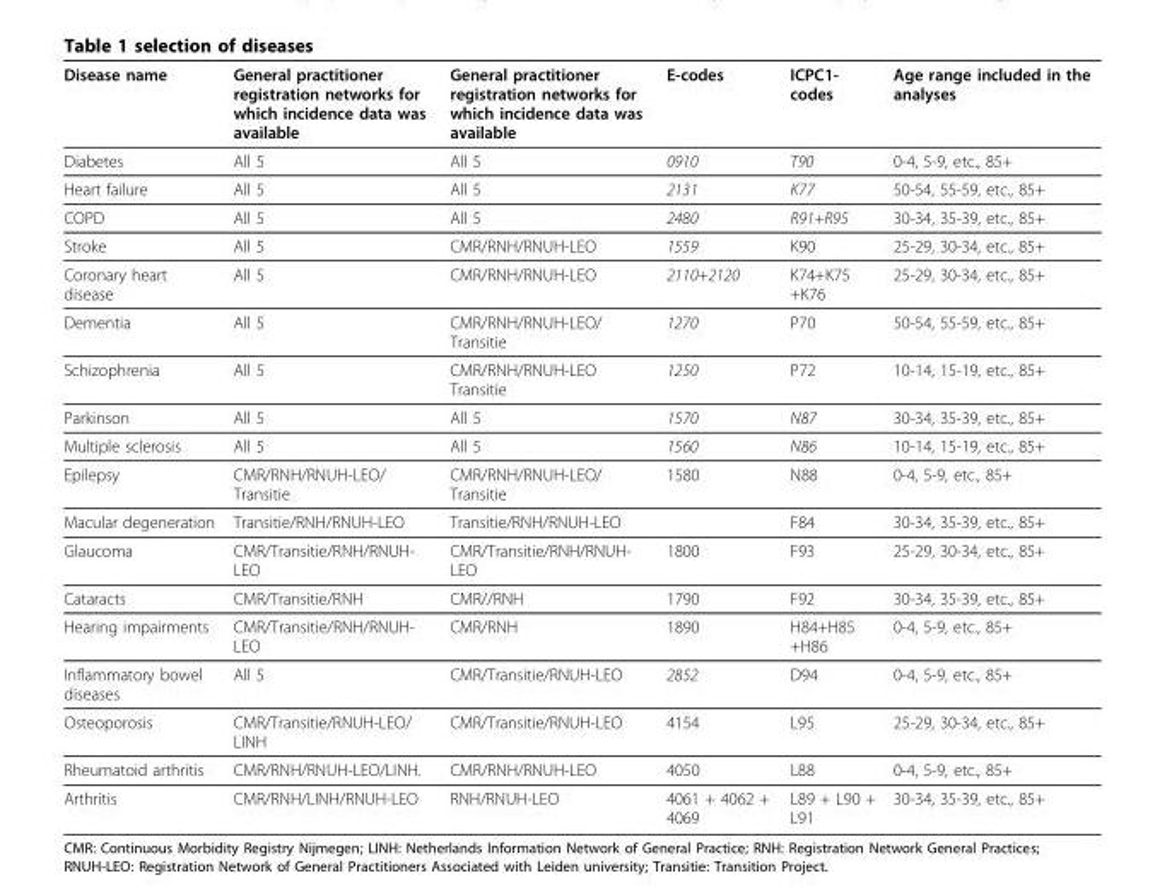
<table><thead><tr><td>Disease name</td><td>General practitioner registration networks for which incidence data was available</td><td>General practitioner registration networks for which incidence data was available</td><td>E-codes</td><td>ICPC1- codes</td><td>Age range included in the analyses</td></tr></thead><tbody><tr><td>Diabetes</td><td>All 5</td><td>All 5</td><td>0910</td><td>T90</td><td>0-4, 5-9, etc., 85+</td></tr><tr><td>Heart failure</td><td>All 5</td><td>All 5</td><td>2131</td><td>K77</td><td>50-54, 55-59, etc., 85+</td></tr><tr><td>COPD</td><td>All 5</td><td>All 5</td><td>2480</td><td>R91+R95</td><td>30-34, 35-39, etc., 85+</td></tr><tr><td>Stroke</td><td>All 5</td><td>CMR/RNH/RNUH-LEO</td><td>1559</td><td>K90</td><td>25-29, 30-34, etc., 85+</td></tr><tr><td>Coronary heart disease</td><td>All 5</td><td>CMR/RNH/RNUH-LEO</td><td>2110+2120</td><td>K74+K75 +K76</td><td>25-29, 30-34, etc., 85+</td></tr><tr><td>Dementia</td><td>All 5</td><td>CMR/RNH/RNUH-LEO/ Transitie</td><td>1270</td><td>P70</td><td>50-54, 55-59, etc., 85+</td></tr><tr><td>Schizophrenia</td><td>All 5</td><td>CMR/RNH/RNUH-LEO Transitie</td><td>1250</td><td>P72</td><td>10-14, 15-19, etc., 85+</td></tr><tr><td>Parkinson</td><td>All 5</td><td>All 5</td><td>1570</td><td>N87</td><td>30-34, 35-39, etc., 85+</td></tr><tr><td>Multiple sclerosis</td><td>All 5</td><td>All 5</td><td>1560</td><td>N86</td><td>10-14, 15-19, etc., 85+</td></tr><tr><td>Epilepsy</td><td>CMR/RNH/RNUH-LEO/ Transitie</td><td>CMR/RNH/RNUH-LEO/ Transitie</td><td>1580</td><td>N88</td><td>0-4, 5-9, etc., 85+</td></tr><tr><td>Macular degeneration</td><td>Transitie/RNH/RNUH-LEO</td><td>Transitie/RNH/RNUH-LEO</td><td></td><td>F84</td><td>30-34, 35-39, etc., 85+</td></tr><tr><td>Glaucoma</td><td>CMR/Transitie/RNH/RNUH- LEO</td><td>CMR/Transitie/RNH/RNUH- LEO</td><td>1800</td><td>F93</td><td>25-29, 30-34, etc., 85+</td></tr><tr><td>Cataracts</td><td>CMR/Transitie/RNH</td><td>CMR//RNH</td><td>1790</td><td>F92</td><td>30-34, 35-39, etc., 85+</td></tr><tr><td>Hearing impairments</td><td>CMR/Transitie/RNH/RNUH- LEO</td><td>CMR/RNH</td><td>1890</td><td>H84+H85 +H86</td><td>0-4, 5-9, etc., 85+</td></tr><tr><td>Inflammatory bowel diseases</td><td>All 5</td><td>CMR/Transitie/RNUH-LEO</td><td>2852</td><td>D94</td><td>0-4, 5-9, etc., 85+</td></tr><tr><td>Osteoporosis</td><td>CMR/Transitie/RNUH-LEO/ LINH</td><td>CMR/Transitie/RNUH-LEO</td><td>4154</td><td>L95</td><td>25-29, 30-34, etc., 85+</td></tr><tr><td>Rheumatoid arthritis</td><td>CMR/RNH/RNUH-LEO/LINH.</td><td>CMR/RNH/RNUH-LEO</td><td>4050</td><td>L88</td><td>0-4, 5-9, etc., 85+</td></tr><tr><td>Arthritis</td><td>CMR/RNH/LINH/RNUH-LEO</td><td>RNH/RNUH-LEO</td><td>4061 + 4062 + 4069</td><td>L89 + L90 + L91</td><td>30-34, 35-39, etc., 85+</td></tr></tbody></table>